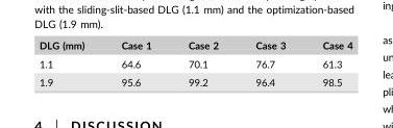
<table><thead><tr><td>DLG (mm)</td><td>Case 1</td><td>Case 2</td><td>Case 3</td><td>Case 4</td></tr></thead><tbody><tr><td>1.1</td><td>64.6</td><td>70.1</td><td>76.7</td><td>61.3</td></tr><tr><td>1.9</td><td>95.6</td><td>99.2</td><td>96.4</td><td>98.5</td></tr></tbody></table>